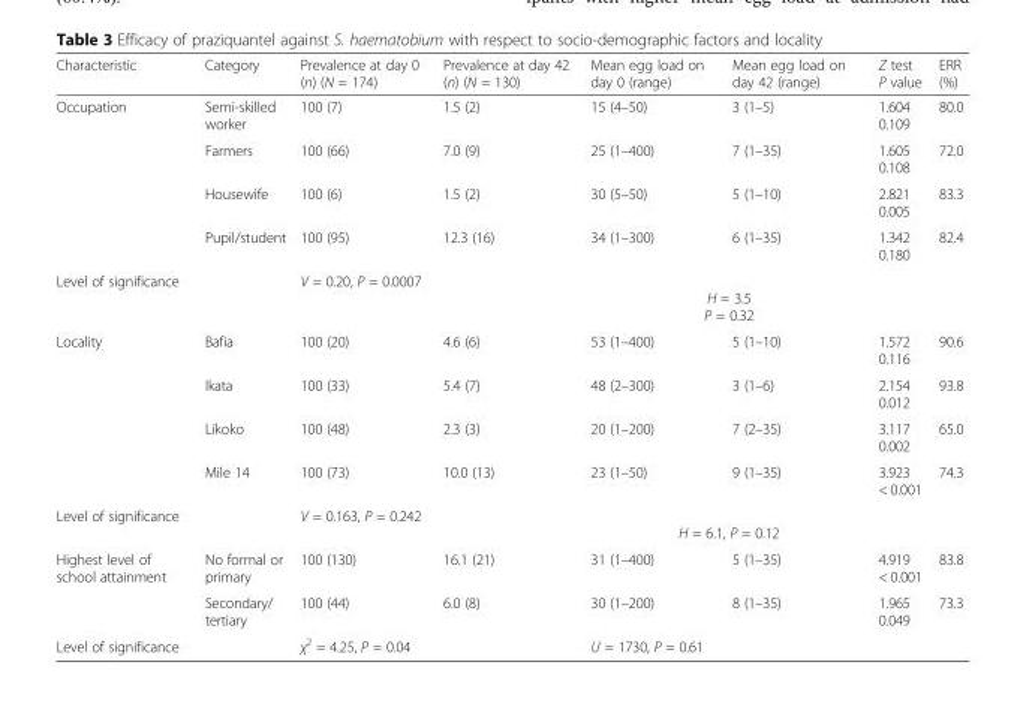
<table><thead><tr><td>Characteristic</td><td>Category</td><td>Prevalence at day 0 (n) (N = 174)</td><td>Prevalence at day 42 (n) (N = 130)</td><td>Mean egg load on day 0 (range)</td><td>Mean egg load on day 42 (range)</td><td>Z test P value</td><td>ERR (%)</td></tr></thead><tbody><tr><td rowspan="4">Occupation</td><td>Semi-skilled worker</td><td>100 (7)</td><td>1.5 (2)</td><td>15 (4–50)</td><td>3 (1–5)</td><td>1.604 0.109</td><td>80.0</td></tr><tr><td>Farmers</td><td>100 (66)</td><td>7.0 (9)</td><td>25 (1–400)</td><td>7 (1–35)</td><td>1.605 0.108</td><td>72.0</td></tr><tr><td>Housewife</td><td>100 (6)</td><td>1.5 (2)</td><td>30 (5–50)</td><td>5 (1–10)</td><td>2.821 0.005</td><td>83.3</td></tr><tr><td>Pupil/student</td><td>100 (95)</td><td>12.3 (16)</td><td>34 (1–300)</td><td>6 (1–35)</td><td>1.342 0.180</td><td>82.4</td></tr><tr><td>Level of significance</td><td></td><td colspan="2">V = 0.20, P = 0.0007</td><td colspan="2">H = 3.5 P = 0.32</td><td></td><td></td></tr><tr><td rowspan="4">Locality</td><td>Bafia</td><td>100 (20)</td><td>4.6 (6)</td><td>53 (1–400)</td><td>5 (1–10)</td><td>1.572 0.116</td><td>90.6</td></tr><tr><td>Ikata</td><td>100 (33)</td><td>5.4 (7)</td><td>48 (2–300)</td><td>3 (1–6)</td><td>2.154 0.012</td><td>93.8</td></tr><tr><td>Likoko</td><td>100 (48)</td><td>2.3 (3)</td><td>20 (1–200)</td><td>7 (2–35)</td><td>3.117 0.002</td><td>65.0</td></tr><tr><td>Mile 14</td><td>100 (73)</td><td>10.0 (13)</td><td>23 (1–50)</td><td>9 (1–35)</td><td>3.923 &lt; 0.001</td><td>74.3</td></tr><tr><td>Level of significance</td><td></td><td colspan="2">V = 0.163, P = 0.242</td><td colspan="2">H = 6.1, P = 0.12</td><td></td><td></td></tr><tr><td rowspan="2">Highest level of school attainment</td><td>No formal or primary</td><td>100 (130)</td><td>16.1 (21)</td><td>31 (1–400)</td><td>5 (1–35)</td><td>4.919 &lt; 0.001</td><td>83.8</td></tr><tr><td>Secondary/ tertiary</td><td>100 (44)</td><td>6.0 (8)</td><td>30 (1–200)</td><td>8 (1–35)</td><td>1.965 0.049</td><td>73.3</td></tr><tr><td>Level of significance</td><td></td><td colspan="2">χ<sup>2</sup> = 4.25, P = 0.04</td><td colspan="2">U = 1730, P = 0.61</td><td></td><td></td></tr></tbody></table>